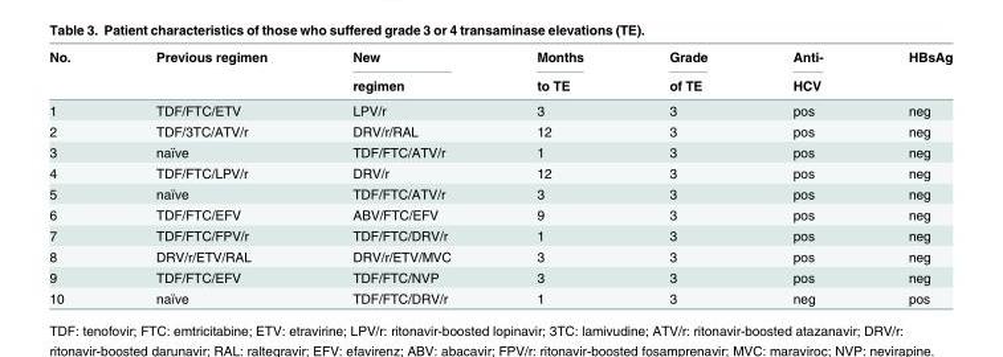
<table><thead><tr><td rowspan="2">No.</td><td rowspan="2">Previous regimen</td><td rowspan="2">New regimen</td><td rowspan="2">Months to TE</td><td rowspan="2">Grade of TE</td><td rowspan="2">Anti- HCV</td><td rowspan="2">HBsAg</td></tr><tr></tr></thead><tbody><tr><td>1</td><td>TDF/FTC/ETV</td><td>LPV/r</td><td>3</td><td>3</td><td>pos</td><td>neg</td></tr><tr><td>2</td><td>TDF/3TC/ATV/r</td><td>DRV/r/RAL</td><td>12</td><td>3</td><td>pos</td><td>neg</td></tr><tr><td>3</td><td>naïve</td><td>TDF/FTC/ATV/r</td><td>1</td><td>3</td><td>pos</td><td>neg</td></tr><tr><td>4</td><td>TDF/FTC/LPV/r</td><td>DRV/r</td><td>12</td><td>3</td><td>pos</td><td>neg</td></tr><tr><td>5</td><td>naïve</td><td>TDF/FTC/ATV/r</td><td>3</td><td>3</td><td>pos</td><td>neg</td></tr><tr><td>6</td><td>TDF/FTC/EFV</td><td>ABV/FTC/EFV</td><td>9</td><td>3</td><td>pos</td><td>neg</td></tr><tr><td>7</td><td>TDF/FTC/FPV/r</td><td>TDF/FTC/DRV/r</td><td>1</td><td>3</td><td>pos</td><td>neg</td></tr><tr><td>8</td><td>DRV/r/ETV/RAL</td><td>DRV/r/ETV/MVC</td><td>3</td><td>3</td><td>pos</td><td>neg</td></tr><tr><td>9</td><td>TDF/FTC/EFV</td><td>TDF/FTC/NVP</td><td>3</td><td>3</td><td>pos</td><td>neg</td></tr><tr><td>10</td><td>naïve</td><td>TDF/FTC/DRV/r</td><td>1</td><td>3</td><td>neg</td><td>pos</td></tr></tbody></table>